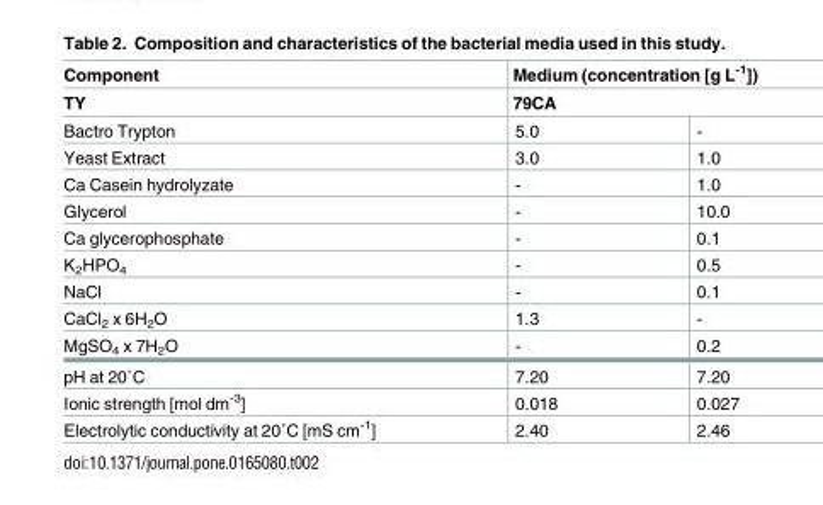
<table><thead><tr><td rowspan="3">Component TY Bactro Trypton</td><td rowspan="2" colspan="2">Medium (concentration [g L<sup>-1</sup>]) 79CA</td></tr><tr></tr><tr><td>5.0</td><td>-</td></tr></thead><tbody><tr><td>Yeast Extract</td><td>3.0</td><td>1.0</td></tr><tr><td>Ca Casein hydrolyzate</td><td>-</td><td>1.0</td></tr><tr><td>Glycerol</td><td>-</td><td>10.0</td></tr><tr><td>Ca glycerophosphate</td><td>-</td><td>0.1</td></tr><tr><td>K<sub>2</sub>HPO<sub>4</sub></td><td>-</td><td>0.5</td></tr><tr><td>NaCl</td><td>-</td><td>0.1</td></tr><tr><td>CaCl<sub>2</sub> x 6H<sub>2</sub>O</td><td>1.3</td><td>-</td></tr><tr><td>MgSO<sub>4</sub> x 7H<sub>2</sub>O</td><td>-</td><td>0.2</td></tr><tr><td>pH at 20˚C</td><td>7.20</td><td>7.20</td></tr><tr><td>Ionic strength [mol dm<sup>-3</sup>]</td><td>0.018</td><td>0.027</td></tr><tr><td>Electrolytic conductivity at 20˚C [mS cm-1]</td><td>2.40</td><td>2.46</td></tr></tbody></table>